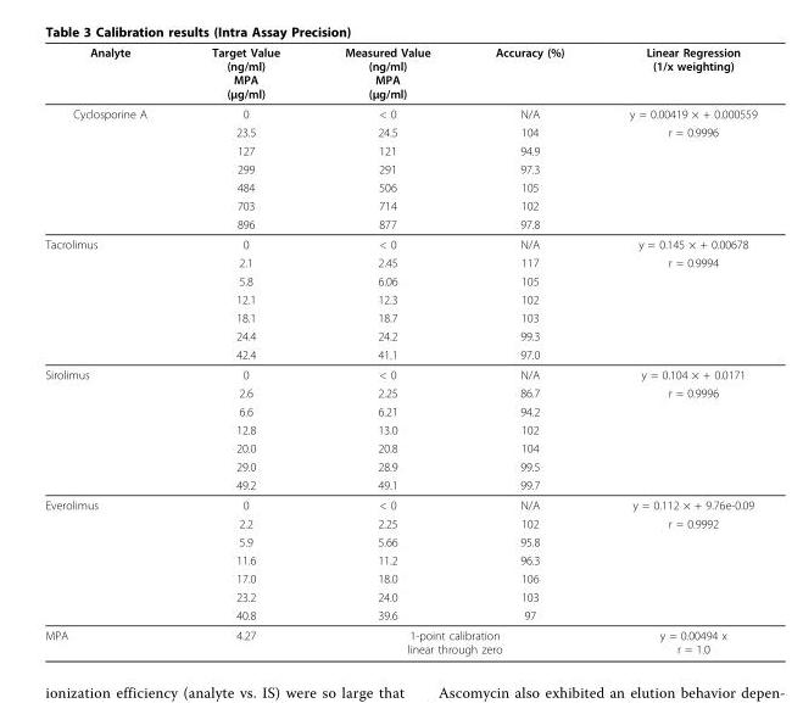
<table><thead><tr><td>Analyte</td><td>Target Value (ng/ml) MPA (μg/ml)</td><td>Measured Value (ng/ml) MPA (μg/ml)</td><td>Accuracy (%)</td><td>Linear Regression (1/x weighting)</td></tr></thead><tbody><tr><td rowspan="7">Cyclosporine A</td><td>0</td><td>&lt; 0</td><td>N/A</td><td>y = 0.00419 × + 0.000559</td></tr><tr><td>23.5</td><td>24.5</td><td>104</td><td>r = 0.9996</td></tr><tr><td>127</td><td>121</td><td>94.9</td><td></td></tr><tr><td>299</td><td>291</td><td>97.3</td><td></td></tr><tr><td>484</td><td>506</td><td>105</td><td></td></tr><tr><td>703</td><td>714</td><td>102</td><td></td></tr><tr><td>896</td><td>877</td><td>97.8</td><td></td></tr><tr><td rowspan="7">Tacrolimus</td><td>0</td><td>&lt; 0</td><td>N/A</td><td>y = 0.145 × + 0.00678</td></tr><tr><td>2.1</td><td>2.45</td><td>117</td><td>r = 0.9994</td></tr><tr><td>5.8</td><td>6.06</td><td>105</td><td></td></tr><tr><td>12.1</td><td>12.3</td><td>102</td><td></td></tr><tr><td>18.1</td><td>18.7</td><td>103</td><td></td></tr><tr><td>24.4</td><td>24.2</td><td>99.3</td><td></td></tr><tr><td>42.4</td><td>41.1</td><td>97.0</td><td></td></tr><tr><td rowspan="7">Sirolimus</td><td>0</td><td>&lt; 0</td><td>N/A</td><td>y = 0.104 × + 0.0171</td></tr><tr><td>2.6</td><td>2.25</td><td>86.7</td><td>r = 0.9996</td></tr><tr><td>6.6</td><td>6.21</td><td>94.2</td><td></td></tr><tr><td>12.8</td><td>13.0</td><td>102</td><td></td></tr><tr><td>20.0</td><td>20.8</td><td>104</td><td></td></tr><tr><td>29.0</td><td>28.9</td><td>99.5</td><td></td></tr><tr><td>49.2</td><td>49.1</td><td>99.7</td><td></td></tr><tr><td rowspan="7">Everolimus</td><td>0</td><td>&lt; 0</td><td>N/A</td><td>y = 0.112 × + 9.76e-0.09</td></tr><tr><td>2.2</td><td>2.25</td><td>102</td><td>r = 0.9992</td></tr><tr><td>5.9</td><td>5.66</td><td>95.8</td><td></td></tr><tr><td>11.6</td><td>11.2</td><td>96.3</td><td></td></tr><tr><td>17.0</td><td>18.0</td><td>106</td><td></td></tr><tr><td>23.2</td><td>24.0</td><td>103</td><td></td></tr><tr><td>40.8</td><td>39.6</td><td>97</td><td></td></tr><tr><td>MPA</td><td>4.27</td><td colspan="2">1-point calibration linear through zero</td><td>y = 0.00494 x r = 1.0</td></tr></tbody></table>